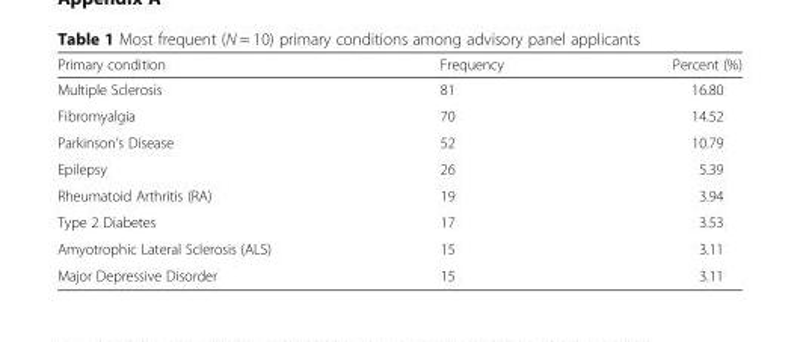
<table><thead><tr><td>Primary condition</td><td>Frequency</td><td>Percent (%)</td></tr></thead><tbody><tr><td>Multiple Sclerosis</td><td>81</td><td>16.80</td></tr><tr><td>Fibromyalgia</td><td>70</td><td>14.52</td></tr><tr><td>Parkinson’s Disease</td><td>52</td><td>10.79</td></tr><tr><td>Epilepsy</td><td>26</td><td>5.39</td></tr><tr><td>Rheumatoid Arthritis (RA)</td><td>19</td><td>3.94</td></tr><tr><td>Type 2 Diabetes</td><td>17</td><td>3.53</td></tr><tr><td>Amyotrophic Lateral Sclerosis (ALS)</td><td>15</td><td>3.11</td></tr><tr><td>Major Depressive Disorder</td><td>15</td><td>3.11</td></tr></tbody></table>